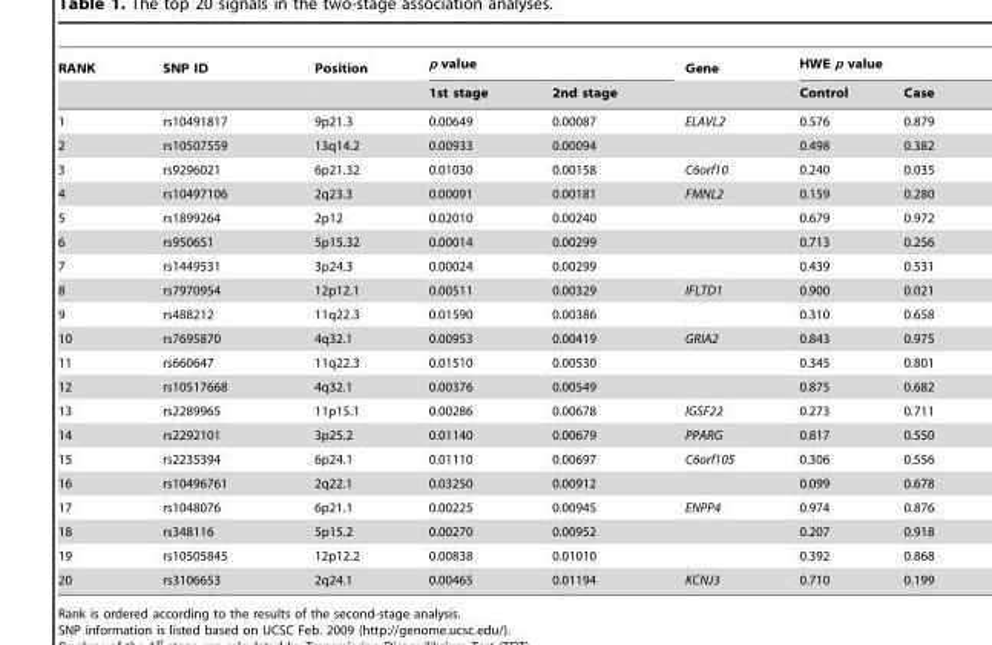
<table><thead><tr><td rowspan="2">RANK</td><td rowspan="2">SNP ID</td><td rowspan="2">Position</td><td colspan="2">p value</td><td rowspan="2">Gene</td><td colspan="2">HWE p value</td></tr><tr><td>1st stage</td><td>2nd stage</td><td>Control</td><td>Case</td></tr></thead><tbody><tr><td>1</td><td>rs10491817</td><td>9p21.3</td><td>0.00649</td><td>0.00087</td><td>ELAVL2</td><td>0.576</td><td>0.879</td></tr><tr><td>2</td><td>rs10507559</td><td>13q14.2</td><td>0.00933</td><td>0.00094</td><td></td><td>0.498</td><td>0.382</td></tr><tr><td>3</td><td>rs9296021</td><td>6p21.32</td><td>0.01030</td><td>0.00158</td><td>C6orf10</td><td>0.240</td><td>0.035</td></tr><tr><td>4</td><td>rs10497106</td><td>2q23.3</td><td>0.00091</td><td>0.00181</td><td>FMNL2</td><td>0.159</td><td>0.280</td></tr><tr><td>5</td><td>rs1899264</td><td>2p12</td><td>0.02010</td><td>0.00240</td><td></td><td>0.679</td><td>0.972</td></tr><tr><td>6</td><td>rs950651</td><td>5p15.32</td><td>0.00014</td><td>0.00299</td><td></td><td>0.713</td><td>0.256</td></tr><tr><td>7</td><td>rs1449531</td><td>3p24.3</td><td>0.00024</td><td>0.00299</td><td></td><td>0.439</td><td>0.531</td></tr><tr><td>8</td><td>rs7970954</td><td>12p12.1</td><td>0.00511</td><td>0.00329</td><td>IFLTD1</td><td>0.900</td><td>0.021</td></tr><tr><td>9</td><td>rs488212</td><td>11q22.3</td><td>0.01590</td><td>0.00386</td><td></td><td>0.310</td><td>0.658</td></tr><tr><td>10</td><td>rs7695870</td><td>4q32.1</td><td>0.00953</td><td>0.00419</td><td>GRIA2</td><td>0.843</td><td>0.975</td></tr><tr><td>11</td><td>rs660647</td><td>11q22.3</td><td>0.01510</td><td>0.00530</td><td></td><td>0.345</td><td>0.801</td></tr><tr><td>12</td><td>rs10517668</td><td>4q32.1</td><td>0.00376</td><td>0.00549</td><td></td><td>0.875</td><td>0.682</td></tr><tr><td>13</td><td>rs2289965</td><td>11p15.1</td><td>0.00286</td><td>0.00678</td><td>IGSF22</td><td>0.273</td><td>0.711</td></tr><tr><td>14</td><td>rs2292101</td><td>3p25.2</td><td>0.01140</td><td>0.00679</td><td>PPARG</td><td>0.817</td><td>0.550</td></tr><tr><td>15</td><td>rs2235394</td><td>6p24.1</td><td>0.01110</td><td>0.00697</td><td>C6orf105</td><td>0.306</td><td>0.556</td></tr><tr><td>16</td><td>rs10496761</td><td>2q22.1</td><td>0.03250</td><td>0.00912</td><td></td><td>0.099</td><td>0.678</td></tr><tr><td>17</td><td>rs1048076</td><td>6p21.1</td><td>0.00225</td><td>0.00945</td><td>ENPP4</td><td>0.974</td><td>0.876</td></tr><tr><td>18</td><td>rs348116</td><td>5p15.2</td><td>0.00270</td><td>0.00952</td><td></td><td>0.207</td><td>0.918</td></tr><tr><td>19</td><td>rs10505845</td><td>12p12.2</td><td>0.00838</td><td>0.01010</td><td></td><td>0.392</td><td>0.868</td></tr><tr><td>20</td><td>rs3106653</td><td>2q24.1</td><td>0.00465</td><td>0.01194</td><td>KCNJ3</td><td>0.710</td><td>0.199</td></tr></tbody></table>